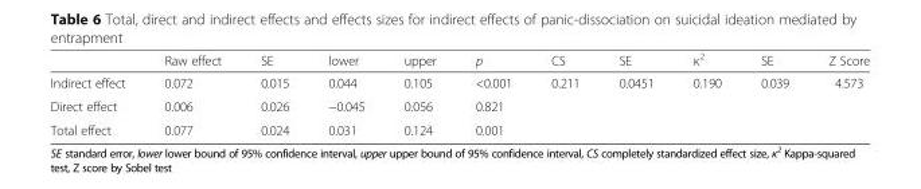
<table><thead><tr><td></td><td>Raw effect</td><td>SE</td><td>lower</td><td>upper</td><td>p</td><td>CS</td><td>SE</td><td>κ<sup>2</sup></td><td>SE</td><td>Z Score</td></tr></thead><tbody><tr><td>Indirect effect</td><td>0.072</td><td>0.015</td><td>0.044</td><td>0.105</td><td>&lt;0.001</td><td>0.211</td><td>0.0451</td><td>0.190</td><td>0.039</td><td>4.573</td></tr><tr><td>Direct effect</td><td>0.006</td><td>0.026</td><td>−0.045</td><td>0.056</td><td>0.821</td><td></td><td></td><td></td><td></td><td></td></tr><tr><td>Total effect</td><td>0.077</td><td>0.024</td><td>0.031</td><td>0.124</td><td>0.001</td><td></td><td></td><td></td><td></td><td></td></tr></tbody></table>